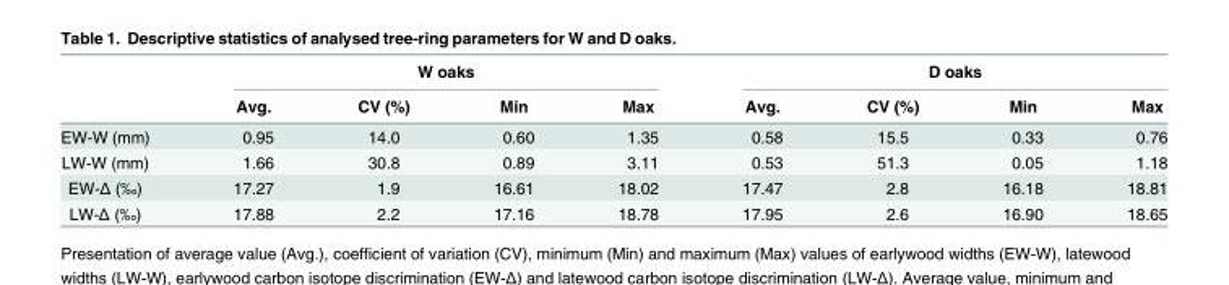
<table><thead><tr><td rowspan="2"></td><td colspan="4">W oaks</td><td colspan="4">D oaks</td></tr><tr><td>Avg.</td><td>CV (%)</td><td>Min</td><td>Max</td><td>Avg.</td><td>CV (%)</td><td>Min</td><td>Max</td></tr></thead><tbody><tr><td>EW-W (mm)</td><td>0.95</td><td>14.0</td><td>0.60</td><td>1.35</td><td>0.58</td><td>15.5</td><td>0.33</td><td>0.76</td></tr><tr><td>LW-W (mm)</td><td>1.66</td><td>30.8</td><td>0.89</td><td>3.11</td><td>0.53</td><td>51.3</td><td>0.05</td><td>1.18</td></tr><tr><td>EW-Δ (‰)</td><td>17.27</td><td>1.9</td><td>16.61</td><td>18.02</td><td>17.47</td><td>2.8</td><td>16.18</td><td>18.81</td></tr><tr><td>LW-Δ (‰)</td><td>17.88</td><td>2.2</td><td>17.16</td><td>18.78</td><td>17.95</td><td>2.6</td><td>16.90</td><td>18.65</td></tr></tbody></table>